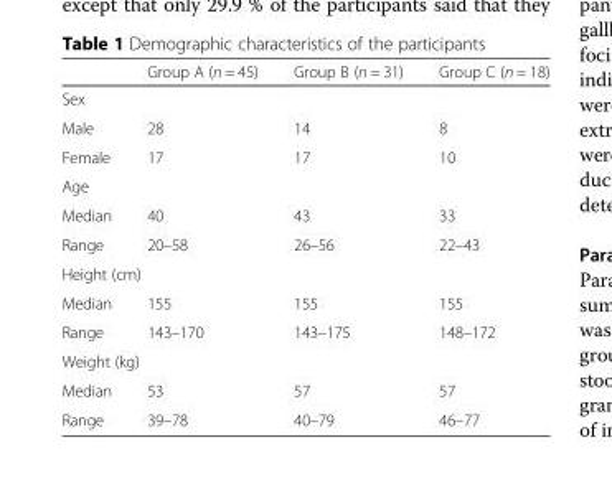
<table><thead><tr><td></td><td>Group A (n = 45)</td><td>Group B (n = 31)</td><td>Group C (n = 18)</td></tr></thead><tbody><tr><td colspan="4">Sex</td></tr><tr><td>Male</td><td>28</td><td>14</td><td>8</td></tr><tr><td>Female</td><td>17</td><td>17</td><td>10</td></tr><tr><td colspan="4">Age</td></tr><tr><td>Median</td><td>40</td><td>43</td><td>33</td></tr><tr><td>Range</td><td>20–58</td><td>26–56</td><td>22–43</td></tr><tr><td colspan="4">Height (cm)</td></tr><tr><td>Median</td><td>155</td><td>155</td><td>155</td></tr><tr><td>Range</td><td>143–170</td><td>143–175</td><td>148–172</td></tr><tr><td colspan="4">Weight (kg)</td></tr><tr><td>Median</td><td>53</td><td>57</td><td>57</td></tr><tr><td>Range</td><td>39–78</td><td>40–79</td><td>46–77</td></tr></tbody></table>